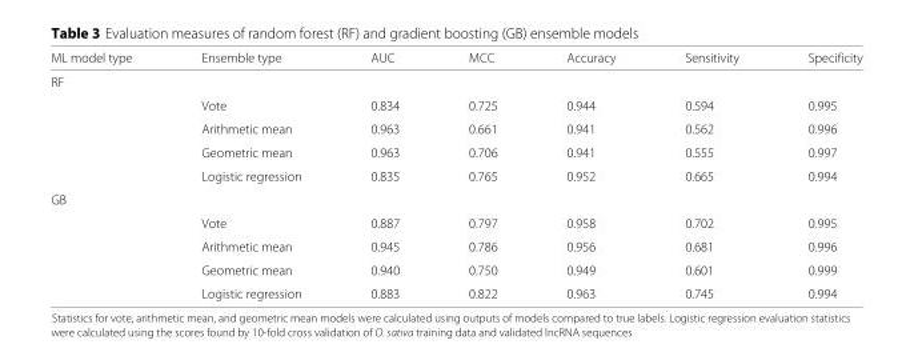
<table><thead><tr><td>ML model type</td><td>Ensemble type</td><td>AUC</td><td>MCC</td><td>Accuracy</td><td>Sensitivity</td><td>Specificity</td></tr></thead><tbody><tr><td colspan="7">RF</td></tr><tr><td></td><td>Vote</td><td>0.834</td><td>0.725</td><td>0.944</td><td>0.594</td><td>0.995</td></tr><tr><td></td><td>Arithmetic mean</td><td>0.963</td><td>0.661</td><td>0.941</td><td>0.562</td><td>0.996</td></tr><tr><td></td><td>Geometric mean</td><td>0.963</td><td>0.706</td><td>0.941</td><td>0.555</td><td>0.997</td></tr><tr><td></td><td>Logistic regression</td><td>0.835</td><td>0.765</td><td>0.952</td><td>0.665</td><td>0.994</td></tr><tr><td colspan="7">GB</td></tr><tr><td></td><td>Vote</td><td>0.887</td><td>0.797</td><td>0.958</td><td>0.702</td><td>0.995</td></tr><tr><td></td><td>Arithmetic mean</td><td>0.945</td><td>0.786</td><td>0.956</td><td>0.681</td><td>0.996</td></tr><tr><td></td><td>Geometric mean</td><td>0.940</td><td>0.750</td><td>0.949</td><td>0.601</td><td>0.999</td></tr><tr><td></td><td>Logistic regression</td><td>0.883</td><td>0.822</td><td>0.963</td><td>0.745</td><td>0.994</td></tr></tbody></table>